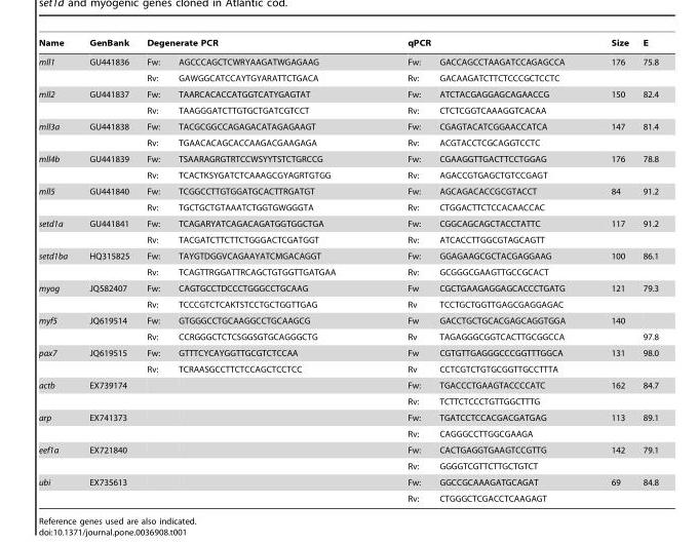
<table><thead><tr><td rowspan="2">Name mll1</td><td rowspan="2">GenBank GU441836</td><td colspan="2">Degenerate PCR</td><td colspan="2">qPCR</td><td rowspan="2">Size 176</td><td rowspan="2">E 75.8</td></tr><tr><td>Fw:</td><td>AGCCCAGCTCWRYAAGATWGAGAAG</td><td>Fw:</td><td>GACCAGCCTAAGATCCAGAGCCA</td></tr></thead><tbody><tr><td></td><td></td><td>Rv:</td><td>GAWGGCATCCAYTGYARATTCTGACA</td><td>Rv:</td><td>GACAAGATCTTCTCCCGCTCCTC</td><td></td><td></td></tr><tr><td rowspan="2">mll2</td><td>GU441837</td><td>Fw:</td><td>TAARCACACCATGGTCATYGAGTAT</td><td>Fw:</td><td>ATCTACGAGGAGCAGAACCG</td><td>150</td><td>82.4</td></tr><tr><td></td><td>Rv:</td><td>TAAGGGATCTTGTGCTGATCGTCCT</td><td>Rv:</td><td>CTCTCGGTCAAAGGTCACAA</td><td></td><td></td></tr><tr><td rowspan="2">mll3a</td><td>GU441838</td><td>Fw:</td><td>TACGCGGCCAGAGACATAGAGAAGT</td><td>Fw:</td><td>CGAGTACATCGGAACCATCA</td><td>147</td><td>81.4</td></tr><tr><td></td><td>Rv:</td><td>TGAACACAGCACCAAGACGAAGAGA</td><td>Rv:</td><td>ACGTACCTCGCAGGTCCTC</td><td></td><td></td></tr><tr><td rowspan="2">mll4b</td><td>GU441839</td><td>Fw:</td><td>TSAARAGRGTRTCCWSYYTSTCTGRCCG</td><td>Fw:</td><td>CGAAGGTTGACTTCCTGGAG</td><td>176</td><td>78.8</td></tr><tr><td></td><td>Rv:</td><td>TCACTKSYGATCTCAAAGCGYAGRTGTGG</td><td>Rv:</td><td>AGACCGTGAGCTGTCCGAGT</td><td></td><td></td></tr><tr><td rowspan="2">mll5</td><td>GU441840</td><td>Fw:</td><td>TCGGCCTTGTGGATGCACTTRGATGT</td><td>Fw:</td><td>AGCAGACACCGCGTACCT</td><td>84</td><td>91.2</td></tr><tr><td></td><td>Rv:</td><td>TGCTGCTGTAAATCTGGTGWGGGTA</td><td>Rv:</td><td>CTGGACTTCTCCACAACCAC</td><td></td><td></td></tr><tr><td rowspan="2">setd1a</td><td>GU441841</td><td>Fw:</td><td>TCAGARYATCAGACAGATGGTGGCTGA</td><td>Fw:</td><td>CGGCAGCAGCTACCTATTC</td><td>117</td><td>91.2</td></tr><tr><td></td><td>Rv:</td><td>TACGATCTTCTTCTGGGACTCGATGGT</td><td>Rv:</td><td>ATCACCTTGGCGTAGCAGTT</td><td></td><td></td></tr><tr><td rowspan="2">setd1ba</td><td>HQ315825</td><td>Fw:</td><td>TAYGTDGGVCAGAAYATCMGACAGGT</td><td>Fw:</td><td>GGAGAAGCGCTACGAGGAAG</td><td>100</td><td>86.1</td></tr><tr><td></td><td>Rv:</td><td>TCAGTTRGGATTRCAGCTGTGGTTGATGAA</td><td>Rv:</td><td>GCGGGCGAAGTTGCCGCACT</td><td></td><td></td></tr><tr><td rowspan="2">myog</td><td>JQ582407</td><td>Fw:</td><td>CAGTGCCTDCCCTGGGCCTGCAAG</td><td>Fw</td><td>CGCTGAAGAGGAGCACCCTGATG</td><td>121</td><td>79.3</td></tr><tr><td></td><td>Rv:</td><td>TCCCGTCTCAKTSTCCTGCTGGTTGAG</td><td>Rv</td><td>TCCTGCTGGTTGAGCGAGGAGAC</td><td></td><td></td></tr><tr><td rowspan="2">myf5</td><td>JQ619514</td><td>Fw:</td><td>GTGGGCCTGCAAGGCCTGCAAGCG</td><td>Fw</td><td>GACCTGCTGCACGAGCAGGTGGA</td><td>140</td><td></td></tr><tr><td></td><td>Rv:</td><td>CCRGGGCTCTCSGGSGTGCAGGGCTG</td><td>Rv</td><td>TAGAGGGCGGTCACTTGCGGCCA</td><td></td><td>97.8</td></tr><tr><td rowspan="2">pax7</td><td>JQ619515</td><td>Fw:</td><td>GTTTCYCAYGGTTGCGTCTCCAA</td><td>Fw</td><td>CGTGTTGAGGGCCCGGTTTGGCA</td><td>131</td><td>98.0</td></tr><tr><td></td><td>Rv:</td><td>TCRAASGCCTTCTCCAGCTCCTCC</td><td>Rv</td><td>CCTCGTCTGTGCGGTTGCCTTTA</td><td></td><td></td></tr><tr><td rowspan="2">actb</td><td>EX739174</td><td></td><td></td><td>Fw:</td><td>TGACCCTGAAGTACCCCATC</td><td>162</td><td>84.7</td></tr><tr><td></td><td></td><td></td><td>Rv:</td><td>TCTTCTCCCTGTTGGCTTTG</td><td></td><td></td></tr><tr><td rowspan="2">arp</td><td>EX741373</td><td></td><td></td><td>Fw:</td><td>TGATCCTCCACGACGATGAG</td><td>113</td><td>89.1</td></tr><tr><td></td><td></td><td></td><td>Rv:</td><td>CAGGGCCTTGGCGAAGA</td><td></td><td></td></tr><tr><td rowspan="2">eef1a</td><td>EX721840</td><td></td><td></td><td>Fw:</td><td>CACTGAGGTGAAGTCCGTTG</td><td>142</td><td>79.1</td></tr><tr><td></td><td></td><td></td><td>Rv:</td><td>GGGGTCGTTCTTGCTGTCT</td><td></td><td></td></tr><tr><td rowspan="2">ubi</td><td>EX735613</td><td></td><td></td><td>Fw:</td><td>GGCCGCAAAGATGCAGAT</td><td>69</td><td>84.8</td></tr><tr><td></td><td></td><td></td><td>Rv:</td><td>CTGGGCTCGACCTCAAGAGT</td><td></td><td></td></tr></tbody></table>